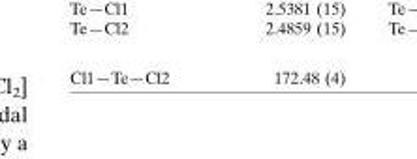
<table><tbody><tr><td>Cl1—Te—Cl2</td><td>172.48 (4)</td></tr></tbody></table>